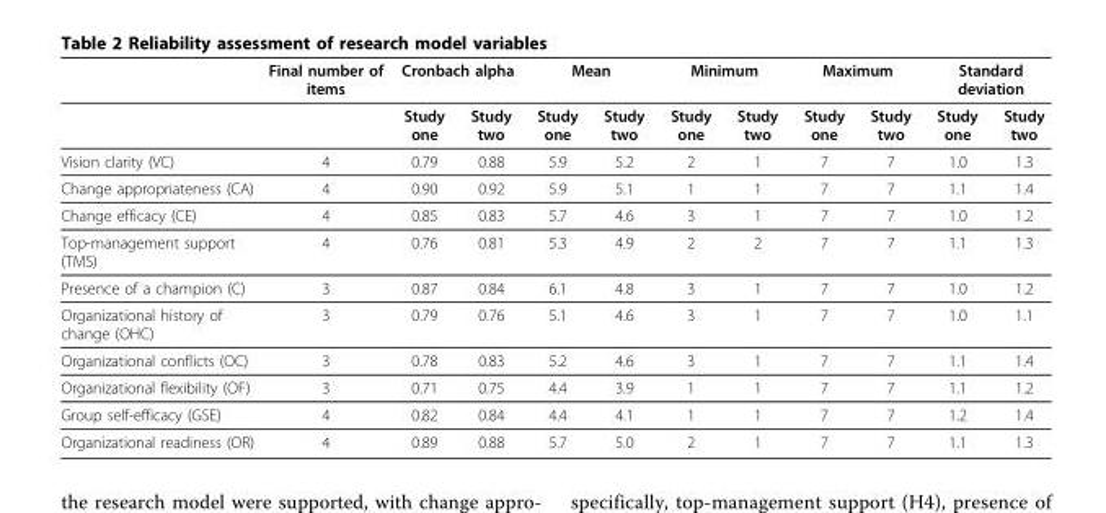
<table><thead><tr><td rowspan="2"></td><td rowspan="2">Final number of items</td><td colspan="2">Cronbach alpha</td><td colspan="2">Mean</td><td colspan="2">Minimum</td><td colspan="2">Maximum</td><td colspan="2">Standard deviation</td></tr><tr><td>Study one</td><td>Study two</td><td>Study one</td><td>Study two</td><td>Study one</td><td>Study two</td><td>Study one</td><td>Study two</td><td>Study one</td><td>Study two</td></tr></thead><tbody><tr><td>Vision clarity (VC)</td><td>4</td><td>0.79</td><td>0.88</td><td>5.9</td><td>5.2</td><td>2</td><td>1</td><td>7</td><td>7</td><td>1.0</td><td>1.3</td></tr><tr><td>Change appropriateness (CA)</td><td>4</td><td>0.90</td><td>0.92</td><td>5.9</td><td>5.1</td><td>1</td><td>1</td><td>7</td><td>7</td><td>1.1</td><td>1.4</td></tr><tr><td>Change efficacy (CE)</td><td>4</td><td>0.85</td><td>0.83</td><td>5.7</td><td>4.6</td><td>3</td><td>1</td><td>7</td><td>7</td><td>1.0</td><td>1.2</td></tr><tr><td>Top-management support (TMS)</td><td>4</td><td>0.76</td><td>0.81</td><td>5.3</td><td>4.9</td><td>2</td><td>2</td><td>7</td><td>7</td><td>1.1</td><td>1.3</td></tr><tr><td>Presence of a champion (C)</td><td>3</td><td>0.87</td><td>0.84</td><td>6.1</td><td>4.8</td><td>3</td><td>1</td><td>7</td><td>7</td><td>1.0</td><td>1.2</td></tr><tr><td>Organizational history of change (OHC)</td><td>3</td><td>0.79</td><td>0.76</td><td>5.1</td><td>4.6</td><td>3</td><td>1</td><td>7</td><td>7</td><td>1.0</td><td>1.1</td></tr><tr><td>Organizational conflicts (OC)</td><td>3</td><td>0.78</td><td>0.83</td><td>5.2</td><td>4.6</td><td>3</td><td>1</td><td>7</td><td>7</td><td>1.1</td><td>1.4</td></tr><tr><td>Organizational flexibility (OF)</td><td>3</td><td>0.71</td><td>0.75</td><td>4.4</td><td>3.9</td><td>1</td><td>1</td><td>7</td><td>7</td><td>1.1</td><td>1.2</td></tr><tr><td>Group self-efficacy (GSE)</td><td>4</td><td>0.82</td><td>0.84</td><td>4.4</td><td>4.1</td><td>1</td><td>1</td><td>7</td><td>7</td><td>1.2</td><td>1.4</td></tr><tr><td>Organizational readiness (OR)</td><td>4</td><td>0.89</td><td>0.88</td><td>5.7</td><td>5.0</td><td>2</td><td>1</td><td>7</td><td>7</td><td>1.1</td><td>1.3</td></tr></tbody></table>